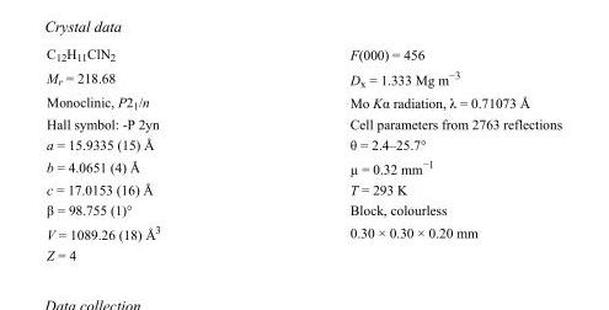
<table><tbody><tr><td>C<sub>12</sub>H<sub>11</sub>ClN<sub>2</sub></td><td>F(000) = 456</td></tr><tr><td>M<sub>r</sub> = 218.68</td><td>D<sub>x</sub> = 1.333 Mg m<sup>−3</sup></td></tr><tr><td>Monoclinic, P2<sub>1</sub>/n</td><td>Mo Kα radiation, λ = 0.71073 Å</td></tr><tr><td>Hall symbol: -P 2yn</td><td>Cell parameters from 2763 reflections</td></tr><tr><td>a = 15.9335 (15) Å</td><td>θ = 2.4–25.7°</td></tr><tr><td>b = 4.0651 (4) Å</td><td>µ = 0.32 mm<sup>−1</sup></td></tr><tr><td>c = 17.0153 (16) Å</td><td>T = 293 K</td></tr><tr><td>β = 98.755 (1)°</td><td>Block, colourless</td></tr><tr><td>V = 1089.26 (18) Å<sup>3</sup></td><td>0.30 × 0.30 × 0.20 mm</td></tr><tr><td>Z = 4</td><td></td></tr></tbody></table>